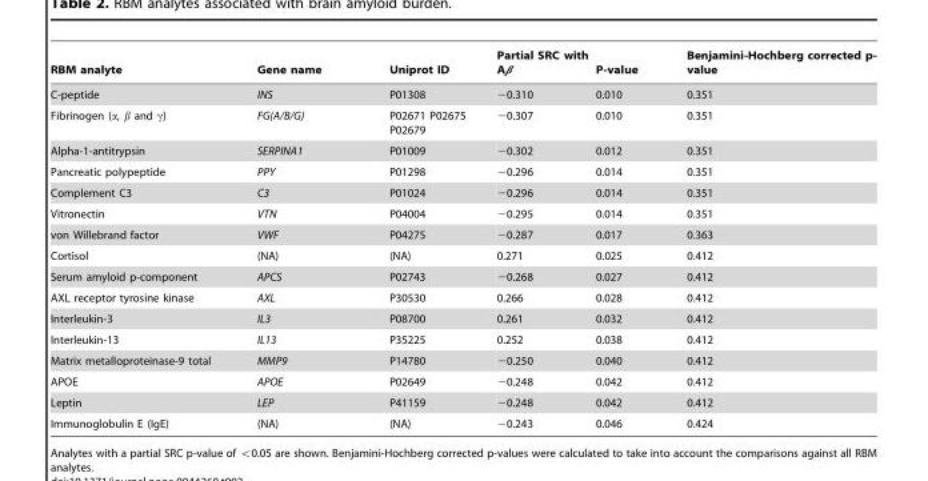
<table><thead><tr><td>RBM analyte</td><td>Gene name</td><td>Uniprot ID</td><td>Partial SRC with Aβ</td><td>P-value</td><td>Benjamini-Hochberg corrected p- value</td></tr></thead><tbody><tr><td>C-peptide</td><td>INS</td><td>P01308</td><td>−0.310</td><td>0.010</td><td>0.351</td></tr><tr><td>Fibrinogen (α, β and γ)</td><td>FG(A/B/G)</td><td>P02671 P02675 P02679</td><td>−0.307</td><td>0.010</td><td>0.351</td></tr><tr><td>Alpha-1-antitrypsin</td><td>SERPINA1</td><td>P01009</td><td>−0.302</td><td>0.012</td><td>0.351</td></tr><tr><td>Pancreatic polypeptide</td><td>PPY</td><td>P01298</td><td>−0.296</td><td>0.014</td><td>0.351</td></tr><tr><td>Complement C3</td><td>C3</td><td>P01024</td><td>−0.296</td><td>0.014</td><td>0.351</td></tr><tr><td>Vitronectin</td><td>VTN</td><td>P04004</td><td>−0.295</td><td>0.014</td><td>0.351</td></tr><tr><td>von Willebrand factor</td><td>VWF</td><td>P04275</td><td>−0.287</td><td>0.017</td><td>0.363</td></tr><tr><td>Cortisol</td><td>(NA)</td><td>(NA)</td><td>0.271</td><td>0.025</td><td>0.412</td></tr><tr><td>Serum amyloid p-component</td><td>APCS</td><td>P02743</td><td>−0.268</td><td>0.027</td><td>0.412</td></tr><tr><td>AXL receptor tyrosine kinase</td><td>AXL</td><td>P30530</td><td>0.266</td><td>0.028</td><td>0.412</td></tr><tr><td>Interleukin-3</td><td>IL3</td><td>P08700</td><td>0.261</td><td>0.032</td><td>0.412</td></tr><tr><td>Interleukin-13</td><td>IL13</td><td>P35225</td><td>0.252</td><td>0.038</td><td>0.412</td></tr><tr><td>Matrix metalloproteinase-9 total</td><td>MMP9</td><td>P14780</td><td>−0.250</td><td>0.040</td><td>0.412</td></tr><tr><td>APOE</td><td>APOE</td><td>P02649</td><td>−0.248</td><td>0.042</td><td>0.412</td></tr><tr><td>Leptin</td><td>LEP</td><td>P41159</td><td>−0.248</td><td>0.042</td><td>0.412</td></tr><tr><td>Immunoglobulin E (IgE)</td><td>(NA)</td><td>(NA)</td><td>−0.243</td><td>0.046</td><td>0.424</td></tr></tbody></table>